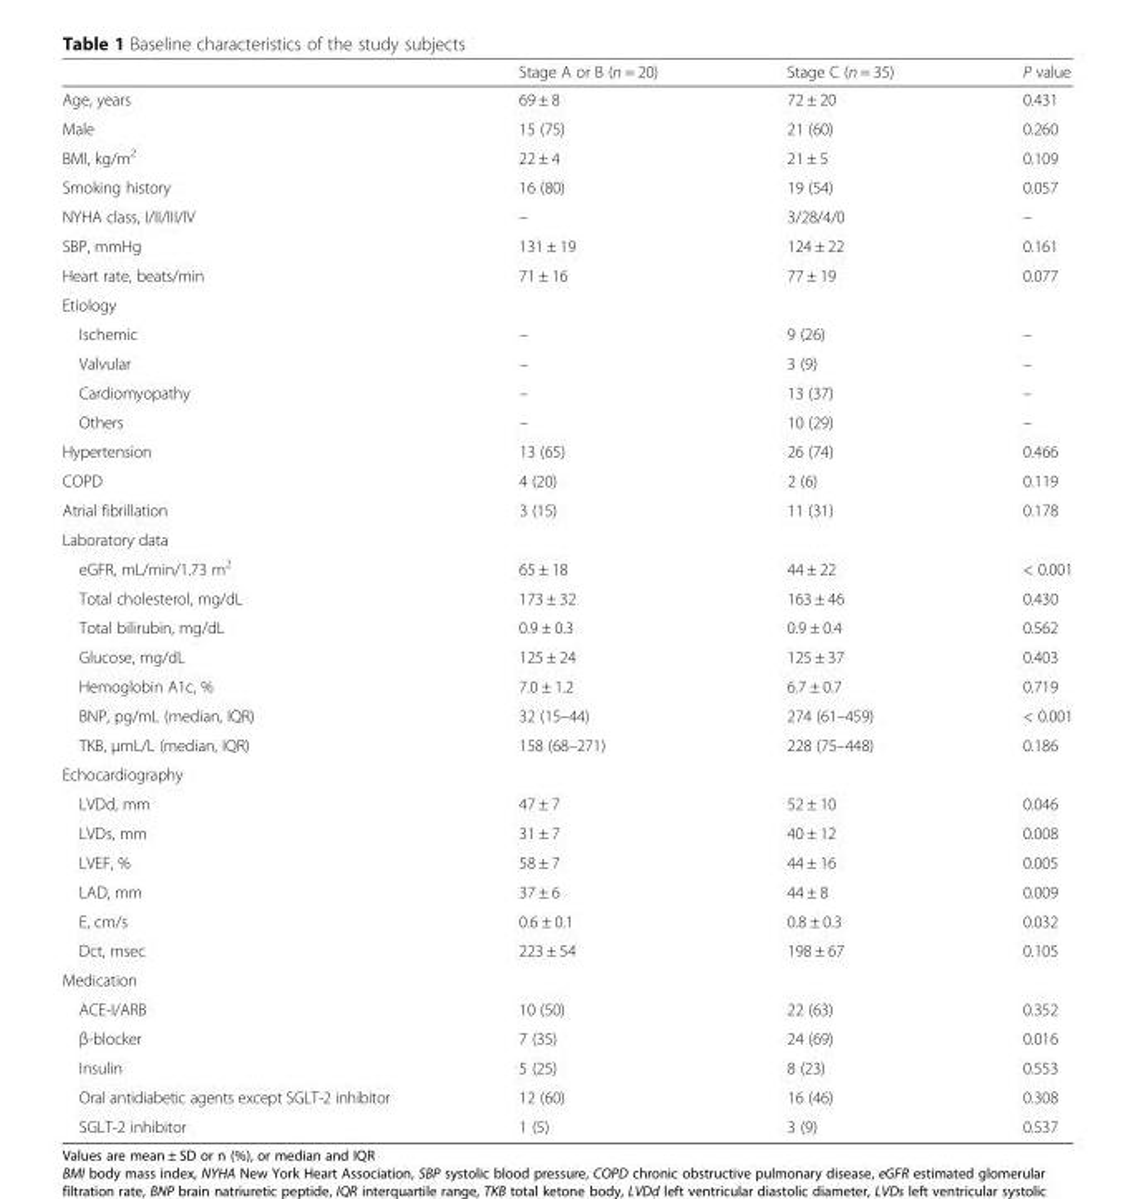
<table><thead><tr><td></td><td>Stage A or B (n = 20)</td><td>Stage C (n = 35)</td><td>P value</td></tr></thead><tbody><tr><td>Age, years</td><td>69 ± 8</td><td>72 ± 20</td><td>0.431</td></tr><tr><td>Male</td><td>15 (75)</td><td>21 (60)</td><td>0.260</td></tr><tr><td>BMI, kg/m<sup>2</sup></td><td>22 ± 4</td><td>21 ± 5</td><td>0.109</td></tr><tr><td>Smoking history</td><td>16 (80)</td><td>19 (54)</td><td>0.057</td></tr><tr><td>NYHA class, I/II/III/IV</td><td>–</td><td>3/28/4/0</td><td>–</td></tr><tr><td>SBP, mmHg</td><td>131 ± 19</td><td>124 ± 22</td><td>0.161</td></tr><tr><td>Heart rate, beats/min</td><td>71 ± 16</td><td>77 ± 19</td><td>0.077</td></tr><tr><td colspan="4">Etiology</td></tr><tr><td>Ischemic</td><td>–</td><td>9 (26)</td><td>–</td></tr><tr><td>Valvular</td><td>–</td><td>3 (9)</td><td>–</td></tr><tr><td>Cardiomyopathy</td><td>–</td><td>13 (37)</td><td>–</td></tr><tr><td>Others</td><td>–</td><td>10 (29)</td><td>–</td></tr><tr><td>Hypertension</td><td>13 (65)</td><td>26 (74)</td><td>0.466</td></tr><tr><td>COPD</td><td>4 (20)</td><td>2 (6)</td><td>0.119</td></tr><tr><td>Atrial fibrillation</td><td>3 (15)</td><td>11 (31)</td><td>0.178</td></tr><tr><td colspan="4">Laboratory data</td></tr><tr><td>eGFR, mL/min/1.73 m<sup>2</sup></td><td>65 ± 18</td><td>44 ± 22</td><td>&lt; 0.001</td></tr><tr><td>Total cholesterol, mg/dL</td><td>173 ± 32</td><td>163 ± 46</td><td>0.430</td></tr><tr><td>Total bilirubin, mg/dL</td><td>0.9 ± 0.3</td><td>0.9 ± 0.4</td><td>0.562</td></tr><tr><td>Glucose, mg/dL</td><td>125 ± 24</td><td>125 ± 37</td><td>0.403</td></tr><tr><td>Hemoglobin A1c, %</td><td>7.0 ± 1.2</td><td>6.7 ± 0.7</td><td>0.719</td></tr><tr><td>BNP, pg/mL (median, IQR)</td><td>32 (15–44)</td><td>274 (61–459)</td><td>&lt; 0.001</td></tr><tr><td>TKB, μmL/L (median, IQR)</td><td>158 (68–271)</td><td>228 (75–448)</td><td>0.186</td></tr><tr><td colspan="4">Echocardiography</td></tr><tr><td>LVDd, mm</td><td>47 ± 7</td><td>52 ± 10</td><td>0.046</td></tr><tr><td>LVDs, mm</td><td>31 ± 7</td><td>40 ± 12</td><td>0.008</td></tr><tr><td>LVEF, %</td><td>58 ± 7</td><td>44 ± 16</td><td>0.005</td></tr><tr><td>LAD, mm</td><td>37 ± 6</td><td>44 ± 8</td><td>0.009</td></tr><tr><td>E, cm/s</td><td>0.6 ± 0.1</td><td>0.8 ± 0.3</td><td>0.032</td></tr><tr><td>Dct, msec</td><td>223 ± 54</td><td>198 ± 67</td><td>0.105</td></tr><tr><td colspan="4">Medication</td></tr><tr><td>ACE-I/ARB</td><td>10 (50)</td><td>22 (63)</td><td>0.352</td></tr><tr><td>β-blocker</td><td>7 (35)</td><td>24 (69)</td><td>0.016</td></tr><tr><td>Insulin</td><td>5 (25)</td><td>8 (23)</td><td>0.553</td></tr><tr><td>Oral antidiabetic agents except SGLT-2 inhibitor</td><td>12 (60)</td><td>16 (46)</td><td>0.308</td></tr><tr><td>SGLT-2 inhibitor</td><td>1 (5)</td><td>3 (9)</td><td>0.537</td></tr></tbody></table>